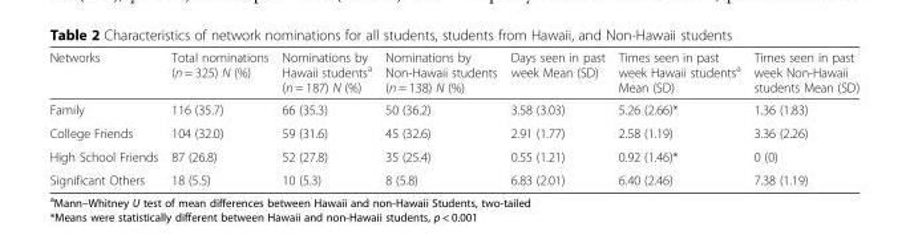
<table><thead><tr><td>Networks</td><td>Total nominations (n = 325) N (%)</td><td>Nominations by Hawaii students<sup>a</sup> (n = 187) N (%)</td><td>Nominations by Non-Hawaii students (n = 138) N (%)</td><td>Days seen in past week Mean (SD)</td><td>Times seen in past week Hawaii students<sup>a</sup> Mean (SD)</td><td>Times seen in past week Non-Hawaii students Mean (SD)</td></tr></thead><tbody><tr><td>Family</td><td>116 (35.7)</td><td>66 (35.3)</td><td>50 (36.2)</td><td>3.58 (3.03)</td><td>5.26 (2.66)*</td><td>1.36 (1.83)</td></tr><tr><td>College Friends</td><td>104 (32.0)</td><td>59 (31.6)</td><td>45 (32.6)</td><td>2.91 (1.77)</td><td>2.58 (1.19)</td><td>3.36 (2.26)</td></tr><tr><td>High School Friends</td><td>87 (26.8)</td><td>52 (27.8)</td><td>35 (25.4)</td><td>0.55 (1.21)</td><td>0.92 (1.46)*</td><td>0 (0)</td></tr><tr><td>Significant Others</td><td>18 (5.5)</td><td>10 (5.3)</td><td>8 (5.8)</td><td>6.83 (2.01)</td><td>6.40 (2.46)</td><td>7.38 (1.19)</td></tr></tbody></table>